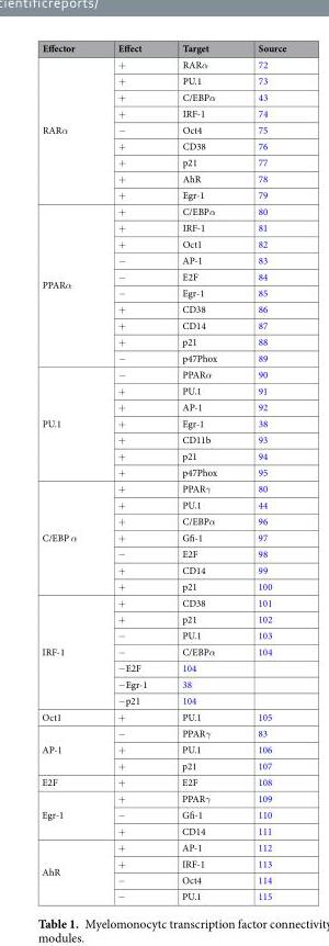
<table><thead><tr><td>Effector</td><td>Effect</td><td>Target</td><td>Source</td></tr></thead><tbody><tr><td rowspan="9">RARα</td><td>+</td><td>RARα</td><td>72</td></tr><tr><td>+</td><td>PU.1</td><td>73</td></tr><tr><td>+</td><td>C/EBPα</td><td>43</td></tr><tr><td>+</td><td>IRF-1</td><td>74</td></tr><tr><td>−</td><td>Oct4</td><td>75</td></tr><tr><td>+</td><td>CD38</td><td>76</td></tr><tr><td>+</td><td>p21</td><td>77</td></tr><tr><td>+</td><td>AhR</td><td>78</td></tr><tr><td>+</td><td>Egr-1</td><td>79</td></tr><tr><td rowspan="10">PPARα</td><td>+</td><td>C/EBPα</td><td>80</td></tr><tr><td>+</td><td>IRF-1</td><td>81</td></tr><tr><td>+</td><td>Oct1</td><td>82</td></tr><tr><td>−</td><td>AP-1</td><td>83</td></tr><tr><td>−</td><td>E2F</td><td>84</td></tr><tr><td>−</td><td>Egr-1</td><td>85</td></tr><tr><td>+</td><td>CD38</td><td>86</td></tr><tr><td>+</td><td>CD14</td><td>87</td></tr><tr><td>+</td><td>p21</td><td>88</td></tr><tr><td>−</td><td>p47Phox</td><td>89</td></tr><tr><td rowspan="7">PU.1</td><td>−</td><td>PPARα</td><td>90</td></tr><tr><td>+</td><td>PU.1</td><td>91</td></tr><tr><td>+</td><td>AP-1</td><td>92</td></tr><tr><td>+</td><td>Egr-1</td><td>38</td></tr><tr><td>+</td><td>CD11b</td><td>93</td></tr><tr><td>+</td><td>p21</td><td>94</td></tr><tr><td>+</td><td>p47Phox</td><td>95</td></tr><tr><td rowspan="7">C/EBP α</td><td>+</td><td>PPARγ</td><td>80</td></tr><tr><td>+</td><td>PU.1</td><td>44</td></tr><tr><td>+</td><td>C/EBPα</td><td>96</td></tr><tr><td>+</td><td>Gfi-1</td><td>97</td></tr><tr><td>−</td><td>E2F</td><td>98</td></tr><tr><td>+</td><td>CD14</td><td>99</td></tr><tr><td>+</td><td>p21</td><td>100</td></tr><tr><td rowspan="7">IRF-1</td><td>+</td><td>CD38</td><td>101</td></tr><tr><td>+</td><td>p21</td><td>102</td></tr><tr><td>−</td><td>PU.1</td><td>103</td></tr><tr><td>−</td><td>C/EBPα</td><td>104</td></tr><tr><td>−E2F</td><td>104</td><td></td></tr><tr><td>−Egr-1</td><td>38</td><td></td></tr><tr><td>−p21</td><td>104</td><td></td></tr><tr><td>Oct1</td><td>+</td><td>PU.1</td><td>105</td></tr><tr><td rowspan="3">AP-1</td><td>−</td><td>PPARγ</td><td>83</td></tr><tr><td>+</td><td>PU.1</td><td>106</td></tr><tr><td>+</td><td>p21</td><td>107</td></tr><tr><td>E2F</td><td>+</td><td>E2F</td><td>108</td></tr><tr><td rowspan="3">Egr-1</td><td>+</td><td>PPARγ</td><td>109</td></tr><tr><td>−</td><td>Gfi-1</td><td>110</td></tr><tr><td>+</td><td>CD14</td><td>111</td></tr><tr><td rowspan="4">AhR</td><td>+</td><td>AP-1</td><td>112</td></tr><tr><td>+</td><td>IRF-1</td><td>113</td></tr><tr><td>−</td><td>Oct4</td><td>114</td></tr><tr><td>−</td><td>PU.1</td><td>115</td></tr></tbody></table>